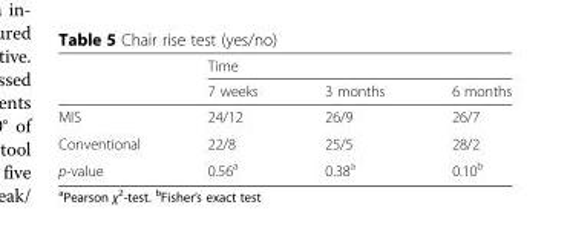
<table><thead><tr><td rowspan="2"></td><td colspan="3">Time</td></tr><tr><td>7 weeks</td><td>3 months</td><td>6 months</td></tr></thead><tbody><tr><td>MIS</td><td>24/12</td><td>26/9</td><td>26/7</td></tr><tr><td>Conventional</td><td>22/8</td><td>25/5</td><td>28/2</td></tr><tr><td>p-value</td><td>0.56<sup>a</sup></td><td>0.38<sup>a</sup></td><td>0.10<sup>b</sup></td></tr></tbody></table>